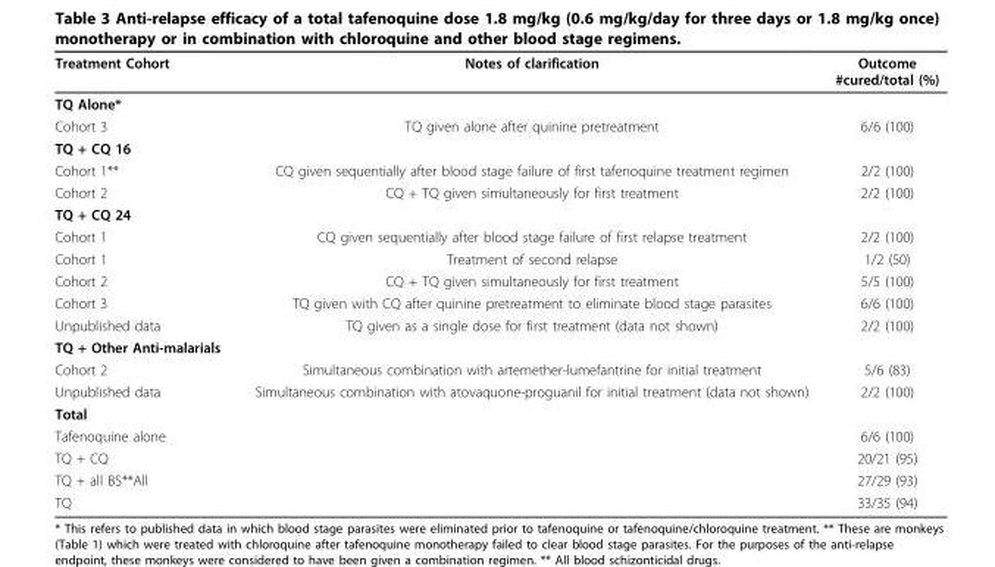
<table><thead><tr><td>Treatment Cohort</td><td>Notes of clarification</td><td>Outcome #cured/total (%)</td></tr></thead><tbody><tr><td colspan="3">TQ Alone*</td></tr><tr><td>Cohort 3</td><td>TQ given alone after quinine pretreatment</td><td>6/6 (100)</td></tr><tr><td colspan="3">TQ + CQ 16</td></tr><tr><td>Cohort 1**</td><td>CQ given sequentially after blood stage failure of first tafenoquine treatment regimen</td><td>2/2 (100)</td></tr><tr><td>Cohort 2</td><td>CQ + TQ given simultaneously for first treatment</td><td>2/2 (100)</td></tr><tr><td colspan="3">TQ + CQ 24</td></tr><tr><td>Cohort 1</td><td>CQ given sequentially after blood stage failure of first relapse treatment</td><td>2/2 (100)</td></tr><tr><td>Cohort 1</td><td>Treatment of second relapse</td><td>1/2 (50)</td></tr><tr><td>Cohort 2</td><td>CQ + TQ given simultaneously for first treatment</td><td>5/5 (100)</td></tr><tr><td>Cohort 3</td><td>TQ given with CQ after quinine pretreatment to eliminate blood stage parasites</td><td>6/6 (100)</td></tr><tr><td>Unpublished data</td><td>TQ given as a single dose for first treatment (data not shown)</td><td>2/2 (100)</td></tr><tr><td colspan="3">TQ + Other Anti-malarials</td></tr><tr><td>Cohort 2</td><td>Simultaneous combination with artemether-lumefantrine for initial treatment</td><td>5/6 (83)</td></tr><tr><td>Unpublished data</td><td>Simultaneous combination with atovaquone-proguanil for initial treatment (data not shown)</td><td>2/2 (100)</td></tr><tr><td colspan="3">Total</td></tr><tr><td>Tafenoquine alone</td><td></td><td>6/6 (100)</td></tr><tr><td>TQ + CQ</td><td></td><td>20/21 (95)</td></tr><tr><td>TQ + all BS**All</td><td></td><td>27/29 (93)</td></tr><tr><td>TQ</td><td></td><td>33/35 (94)</td></tr></tbody></table>